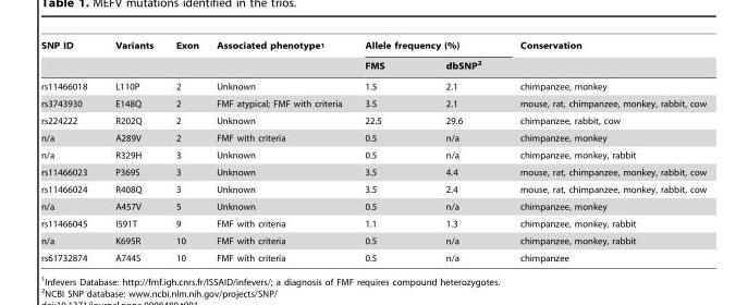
<table><thead><tr><td rowspan="2">SNP ID</td><td rowspan="2">Variants</td><td rowspan="2">Exon</td><td rowspan="2">Associated phenotype<sup>1</sup></td><td colspan="2">Allele frequency (%)</td><td rowspan="2">Conservation</td></tr><tr><td>FMS</td><td>dbSNP<sup>2</sup></td></tr></thead><tbody><tr><td>rs11466018</td><td>L110P</td><td>2</td><td>Unknown</td><td>1.5</td><td>2.1</td><td>chimpanzee, monkey</td></tr><tr><td>rs3743930</td><td>E148Q</td><td>2</td><td>FMF atypical; FMF with criteria</td><td>3.5</td><td>2.1</td><td>mouse, rat, chimpanzee, monkey, rabbit, cow</td></tr><tr><td>rs224222</td><td>R202Q</td><td>2</td><td>Unknown</td><td>22.5</td><td>29.6</td><td>chimpanzee, rabbit, cow</td></tr><tr><td>n/a</td><td>A289V</td><td>2</td><td>FMF with criteria</td><td>0.5</td><td>n/a</td><td>chimpanzee, monkey</td></tr><tr><td>n/a</td><td>R329H</td><td>3</td><td>Unknown</td><td>0.5</td><td>n/a</td><td>chimpanzee, monkey, rabbit</td></tr><tr><td>rs11466023</td><td>P369S</td><td>3</td><td>Unknown</td><td>3.5</td><td>4.4</td><td>mouse, rat, chimpanzee, monkey, rabbit, cow</td></tr><tr><td>rs11466024</td><td>R408Q</td><td>3</td><td>Unknown</td><td>3.5</td><td>2.4</td><td>mouse, rat, chimpanzee, monkey, rabbit, cow</td></tr><tr><td>n/a</td><td>A457V</td><td>5</td><td>Unknown</td><td>0.5</td><td>n/a</td><td>chimpanzee, monkey</td></tr><tr><td>rs11466045</td><td>I591T</td><td>9</td><td>FMF with criteria</td><td>1.1</td><td>1.3</td><td>chimpanzee, monkey, rabbit</td></tr><tr><td>n/a</td><td>K695R</td><td>10</td><td>FMF with criteria</td><td>0.5</td><td>n/a</td><td>chimpanzee, monkey, rabbit</td></tr><tr><td>rs61732874</td><td>A744S</td><td>10</td><td>FMF with criteria</td><td>0.5</td><td>n/a</td><td>chimpanzee</td></tr></tbody></table>